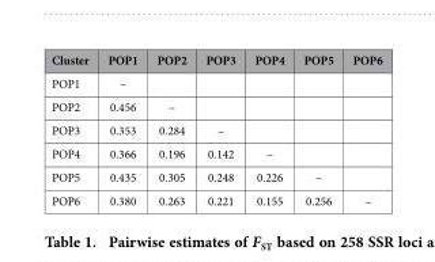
<table><thead><tr><td>Cluster</td><td>POP1</td><td>POP2</td><td>POP3</td><td>POP4</td><td>POP5</td><td>POP6</td></tr></thead><tbody><tr><td>POP1</td><td>–</td><td></td><td></td><td></td><td></td><td></td></tr><tr><td>POP2</td><td>0.456</td><td>–</td><td></td><td></td><td></td><td></td></tr><tr><td>POP3</td><td>0.353</td><td>0.284</td><td>–</td><td></td><td></td><td></td></tr><tr><td>POP4</td><td>0.366</td><td>0.196</td><td>0.142</td><td>–</td><td></td><td></td></tr><tr><td>POP5</td><td>0.435</td><td>0.305</td><td>0.248</td><td>0.226</td><td>–</td><td></td></tr><tr><td>POP6</td><td>0.380</td><td>0.263</td><td>0.221</td><td>0.155</td><td>0.256</td><td>–</td></tr></tbody></table>